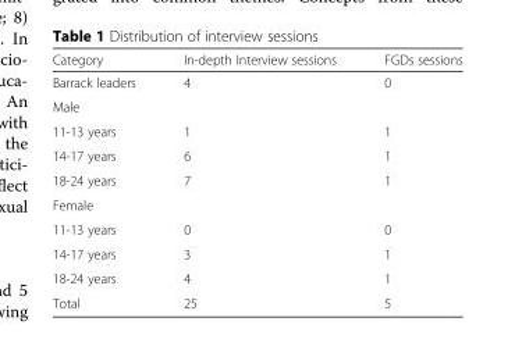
<table><thead><tr><td>Category</td><td>In-depth Interview sessions</td><td>FGDs sessions</td></tr></thead><tbody><tr><td>Barrack leaders</td><td>4</td><td>0</td></tr><tr><td colspan="3">Male</td></tr><tr><td>11-13 years</td><td>1</td><td>1</td></tr><tr><td>14-17 years</td><td>6</td><td>1</td></tr><tr><td>18-24 years</td><td>7</td><td>1</td></tr><tr><td colspan="3">Female</td></tr><tr><td>11-13 years</td><td>0</td><td>0</td></tr><tr><td>14-17 years</td><td>3</td><td>1</td></tr><tr><td>18-24 years</td><td>4</td><td>1</td></tr><tr><td>Total</td><td>25</td><td>5</td></tr></tbody></table>